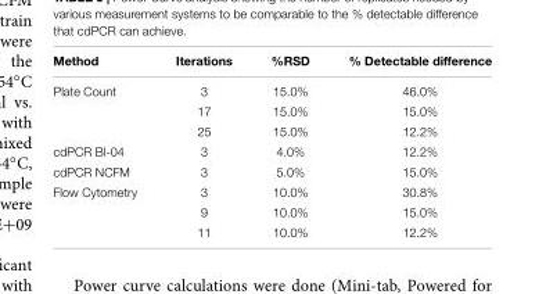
<table><thead><tr><td>Method</td><td>Iterations</td><td>%RSD</td><td>% Detectable difference</td></tr></thead><tbody><tr><td rowspan="3">Plate Count</td><td>3</td><td>15.0%</td><td>46.0%</td></tr><tr><td>17</td><td>15.0%</td><td>15.0%</td></tr><tr><td>25</td><td>15.0%</td><td>12.2%</td></tr><tr><td>cdPCR Bl-04</td><td>3</td><td>4.0%</td><td>12.2%</td></tr><tr><td>cdPCR NCFM</td><td>3</td><td>5.0%</td><td>15.0%</td></tr><tr><td rowspan="3">Flow Cytometry</td><td>3</td><td>10.0%</td><td>30.8%</td></tr><tr><td>9</td><td>10.0%</td><td>15.0%</td></tr><tr><td>11</td><td>10.0%</td><td>12.2%</td></tr></tbody></table>